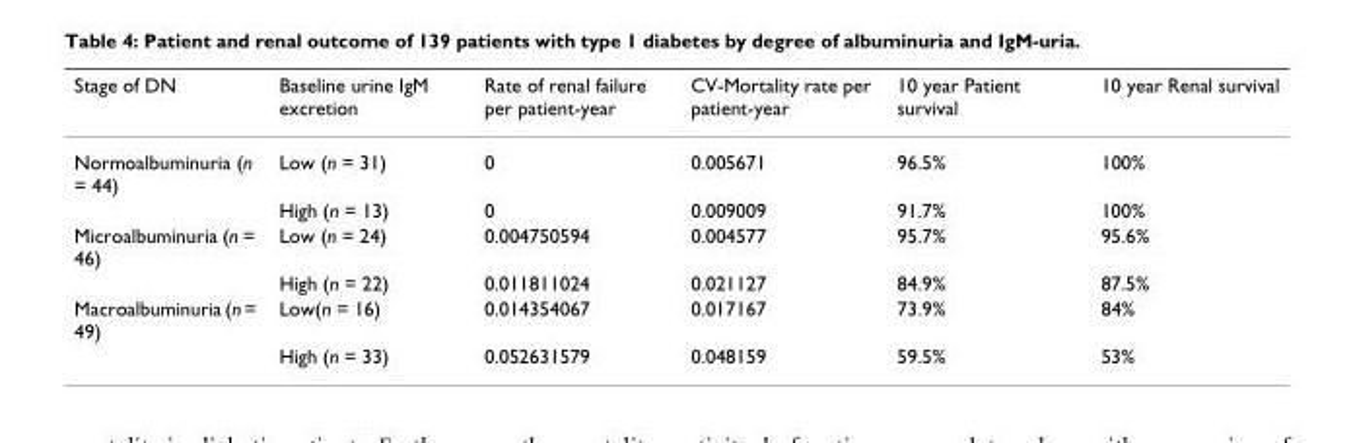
<table><thead><tr><td>Stage of DN</td><td>Baseline urine IgM excretion</td><td>Rate of renal failure per patient-year</td><td>CV-Mortality rate per patient-year</td><td>10 year Patient survival</td><td>10 year Renal survival</td></tr></thead><tbody><tr><td rowspan="2">Normoalbuminuria (n = 44)</td><td>Low (n = 31)</td><td>0</td><td>0.005671</td><td>96.5%</td><td>100%</td></tr><tr><td>High (n = 13)</td><td>0</td><td>0.009009</td><td>91.7%</td><td>100%</td></tr><tr><td rowspan="2">Microalbuminuria (n = 46)</td><td>Low (n = 24)</td><td>0.004750594</td><td>0.004577</td><td>95.7%</td><td>95.6%</td></tr><tr><td>High (n = 22)</td><td>0.011811024</td><td>0.021127</td><td>84.9%</td><td>87.5%</td></tr><tr><td rowspan="2">Macroalbuminuria (n = 49)</td><td>Low(n = 16)</td><td>0.014354067</td><td>0.017167</td><td>73.9%</td><td>84%</td></tr><tr><td>High (n = 33)</td><td>0.052631579</td><td>0.048159</td><td>59.5%</td><td>53%</td></tr></tbody></table>